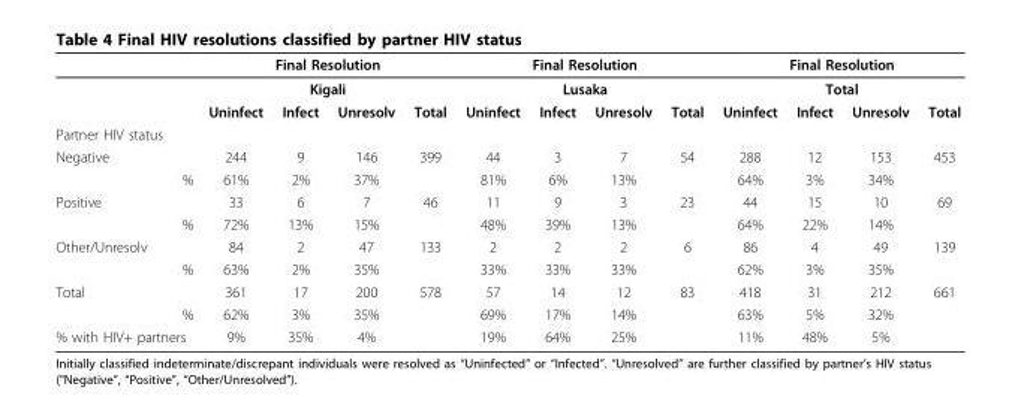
<table><thead><tr><td rowspan="3"></td><td rowspan="2" colspan="4">Final Resolution Kigali</td><td rowspan="2" colspan="4">Final Resolution Lusaka</td><td rowspan="2" colspan="4">Final Resolution Total</td></tr><tr></tr><tr><td>Uninfect</td><td>Infect</td><td>Unresolv</td><td>Total</td><td>Uninfect</td><td>Infect</td><td>Unresolv</td><td>Total</td><td>Uninfect</td><td>Infect</td><td>Unresolv</td><td>Total</td></tr></thead><tbody><tr><td colspan="13">Partner HIV status</td></tr><tr><td>Negative</td><td>244</td><td>9</td><td>146</td><td>399</td><td>44</td><td>3</td><td>7</td><td>54</td><td>288</td><td>12</td><td>153</td><td>453</td></tr><tr><td>%</td><td>61%</td><td>2%</td><td>37%</td><td></td><td>81%</td><td>6%</td><td>13%</td><td></td><td>64%</td><td>3%</td><td>34%</td><td></td></tr><tr><td>Positive</td><td>33</td><td>6</td><td>7</td><td>46</td><td>11</td><td>9</td><td>3</td><td>23</td><td>44</td><td>15</td><td>10</td><td>69</td></tr><tr><td>%</td><td>72%</td><td>13%</td><td>15%</td><td></td><td>48%</td><td>39%</td><td>13%</td><td></td><td>64%</td><td>22%</td><td>14%</td><td></td></tr><tr><td>Other/Unresolv</td><td>84</td><td>2</td><td>47</td><td>133</td><td>2</td><td>2</td><td>2</td><td>6</td><td>86</td><td>4</td><td>49</td><td>139</td></tr><tr><td>%</td><td>63%</td><td>2%</td><td>35%</td><td></td><td>33%</td><td>33%</td><td>33%</td><td></td><td>62%</td><td>3%</td><td>35%</td><td></td></tr><tr><td>Total</td><td>361</td><td>17</td><td>200</td><td>578</td><td>57</td><td>14</td><td>12</td><td>83</td><td>418</td><td>31</td><td>212</td><td>661</td></tr><tr><td>%</td><td>62%</td><td>3%</td><td>35%</td><td></td><td>69%</td><td>17%</td><td>14%</td><td></td><td>63%</td><td>5%</td><td>32%</td><td></td></tr><tr><td>% with HIV+ partners</td><td>9%</td><td>35%</td><td>4%</td><td></td><td>19%</td><td>64%</td><td>25%</td><td></td><td>11%</td><td>48%</td><td>5%</td><td></td></tr></tbody></table>